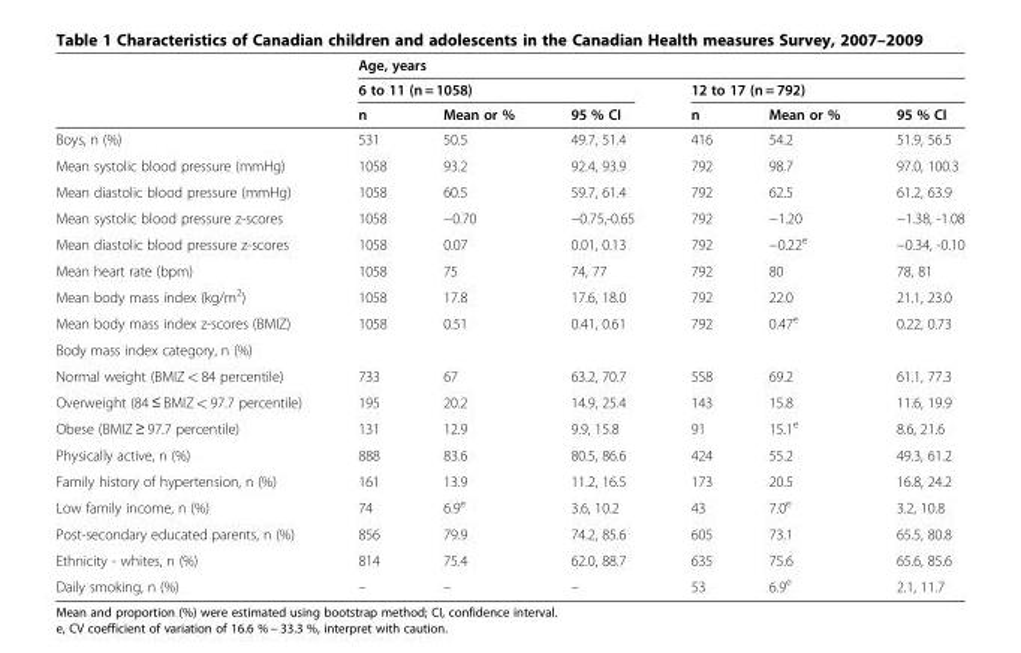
<table><thead><tr><td rowspan="3"></td><td colspan="6">Age, years</td></tr><tr><td colspan="3">6 to 11 (n = 1058)</td><td colspan="3">12 to 17 (n = 792)</td></tr><tr><td>n</td><td>Mean or %</td><td>95 % CI</td><td>n</td><td>Mean or %</td><td>95 % CI</td></tr></thead><tbody><tr><td>Boys, n (%)</td><td>531</td><td>50.5</td><td>49.7, 51.4</td><td>416</td><td>54.2</td><td>51.9, 56.5</td></tr><tr><td>Mean systolic blood pressure (mmHg)</td><td>1058</td><td>93.2</td><td>92.4, 93.9</td><td>792</td><td>98.7</td><td>97.0, 100.3</td></tr><tr><td>Mean diastolic blood pressure (mmHg)</td><td>1058</td><td>60.5</td><td>59.7, 61.4</td><td>792</td><td>62.5</td><td>61.2, 63.9</td></tr><tr><td>Mean systolic blood pressure z-scores</td><td>1058</td><td>−0.70</td><td>−0.75,-0.65</td><td>792</td><td>−1.20</td><td>−1.38, -1.08</td></tr><tr><td>Mean diastolic blood pressure z-scores</td><td>1058</td><td>0.07</td><td>0.01, 0.13</td><td>792</td><td>−0.22<sup>e</sup></td><td>−0.34, -0.10</td></tr><tr><td>Mean heart rate (bpm)</td><td>1058</td><td>75</td><td>74, 77</td><td>792</td><td>80</td><td>78, 81</td></tr><tr><td>Mean body mass index (kg/m<sup>2</sup>)</td><td>1058</td><td>17.8</td><td>17.6, 18.0</td><td>792</td><td>22.0</td><td>21.1, 23.0</td></tr><tr><td>Mean body mass index z-scores (BMIZ)</td><td>1058</td><td>0.51</td><td>0.41, 0.61</td><td>792</td><td>0.47<sup>e</sup></td><td>0.22, 0.73</td></tr><tr><td colspan="7">Body mass index category, n (%)</td></tr><tr><td>Normal weight (BMIZ &lt; 84 percentile)</td><td>733</td><td>67</td><td>63.2, 70.7</td><td>558</td><td>69.2</td><td>61.1, 77.3</td></tr><tr><td>Overweight (84 ≤ BMIZ &lt; 97.7 percentile)</td><td>195</td><td>20.2</td><td>14.9, 25.4</td><td>143</td><td>15.8</td><td>11.6, 19.9</td></tr><tr><td>Obese (BMIZ ≥ 97.7 percentile)</td><td>131</td><td>12.9</td><td>9.9, 15.8</td><td>91</td><td>15.1<sup>e</sup></td><td>8.6, 21.6</td></tr><tr><td>Physically active, n (%)</td><td>888</td><td>83.6</td><td>80.5, 86.6</td><td>424</td><td>55.2</td><td>49.3, 61.2</td></tr><tr><td>Family history of hypertension, n (%)</td><td>161</td><td>13.9</td><td>11.2, 16.5</td><td>173</td><td>20.5</td><td>16.8, 24.2</td></tr><tr><td>Low family income, n (%)</td><td>74</td><td>6.9<sup>e</sup></td><td>3.6, 10.2</td><td>43</td><td>7.0<sup>e</sup></td><td>3.2, 10.8</td></tr><tr><td>Post-secondary educated parents, n (%)</td><td>856</td><td>79.9</td><td>74.2, 85.6</td><td>605</td><td>73.1</td><td>65.5, 80.8</td></tr><tr><td>Ethnicity - whites, n (%)</td><td>814</td><td>75.4</td><td>62.0, 88.7</td><td>635</td><td>75.6</td><td>65.6, 85.6</td></tr><tr><td>Daily smoking, n (%)</td><td>–</td><td>–</td><td>–</td><td>53</td><td>6.9<sup>e</sup></td><td>2.1, 11.7</td></tr></tbody></table>